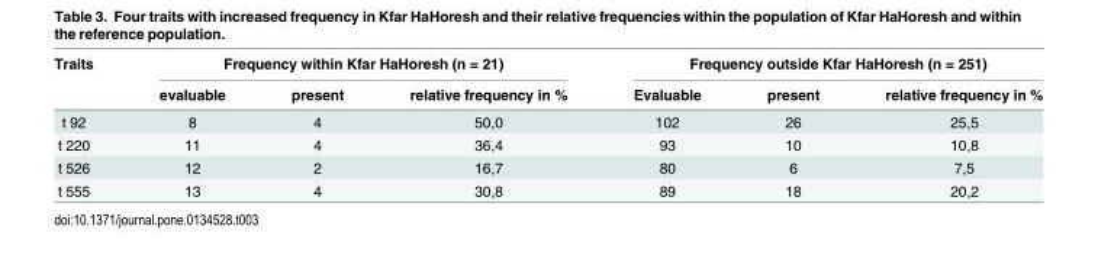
<table><thead><tr><td rowspan="2">Traits</td><td colspan="3">Frequency within Kfar HaHoresh (n = 21)</td><td colspan="3">Frequency outside Kfar HaHoresh (n = 251)</td></tr><tr><td>evaluable</td><td>present</td><td>relative frequency in %</td><td>Evaluable</td><td>present</td><td>relative frequency in %</td></tr></thead><tbody><tr><td>t 92</td><td>8</td><td>4</td><td>50,0</td><td>102</td><td>26</td><td>25,5</td></tr><tr><td>t 220</td><td>11</td><td>4</td><td>36,4</td><td>93</td><td>10</td><td>10,8</td></tr><tr><td>t 526</td><td>12</td><td>2</td><td>16,7</td><td>80</td><td>6</td><td>7,5</td></tr><tr><td>t 555</td><td>13</td><td>4</td><td>30,8</td><td>89</td><td>18</td><td>20,2</td></tr></tbody></table>